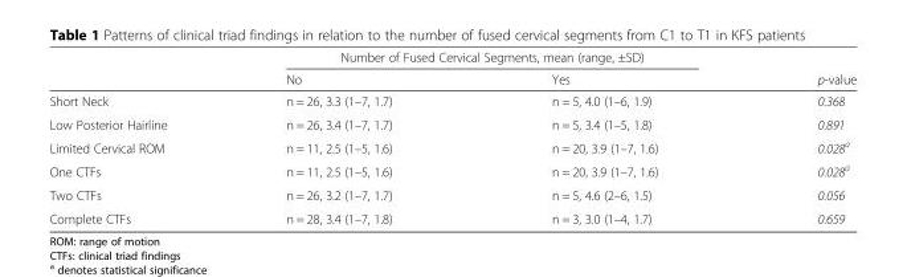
<table><thead><tr><td rowspan="2"></td><td colspan="2">Number of Fused Cervical Segments, mean (range, ±SD)</td><td rowspan="2">p-value</td></tr><tr><td>No</td><td>Yes</td></tr></thead><tbody><tr><td>Short Neck</td><td>n = 26, 3.3 (1–7, 1.7)</td><td>n = 5, 4.0 (1–6, 1.9)</td><td>0.368</td></tr><tr><td>Low Posterior Hairline</td><td>n = 26, 3.4 (1–7, 1.7)</td><td>n = 5, 3.4 (1–5, 1.8)</td><td>0.891</td></tr><tr><td>Limited Cervical ROM</td><td>n = 11, 2.5 (1–5, 1.6)</td><td>n = 20, 3.9 (1–7, 1.6)</td><td>0.028<sup>a</sup></td></tr><tr><td>One CTFs</td><td>n = 11, 2.5 (1–5, 1.6)</td><td>n = 20, 3.9 (1–7, 1.6)</td><td>0.028<sup>a</sup></td></tr><tr><td>Two CTFs</td><td>n = 26, 3.2 (1–7, 1.7)</td><td>n = 5, 4.6 (2–6, 1.5)</td><td>0.056</td></tr><tr><td>Complete CTFs</td><td>n = 28, 3.4 (1–7, 1.8)</td><td>n = 3, 3.0 (1–4, 1.7)</td><td>0.659</td></tr></tbody></table>